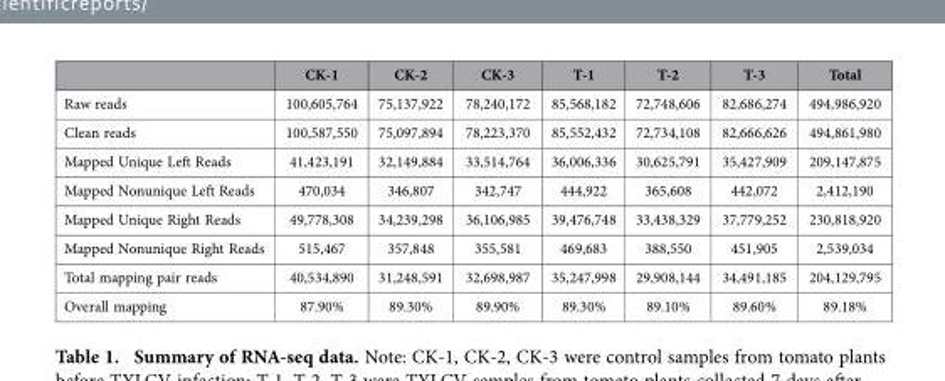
<table><thead><tr><td></td><td>CK-1</td><td>CK-2</td><td>CK-3</td><td>T-1</td><td>T-2</td><td>T-3</td><td>Total</td></tr></thead><tbody><tr><td>Raw reads</td><td>100,605,764</td><td>75,137,922</td><td>78,240,172</td><td>85,568,182</td><td>72,748,606</td><td>82,686,274</td><td>494,986,920</td></tr><tr><td>Clean reads</td><td>100,587,550</td><td>75,097,894</td><td>78,223,370</td><td>85,552,432</td><td>72,734,108</td><td>82,666,626</td><td>494,861,980</td></tr><tr><td>Mapped Unique Left Reads</td><td>41,423,191</td><td>32,149,884</td><td>33,514,764</td><td>36,006,336</td><td>30,625,791</td><td>35,427,909</td><td>209,147,875</td></tr><tr><td>Mapped Nonunique Left Reads</td><td>470,034</td><td>346,807</td><td>342,747</td><td>444,922</td><td>365,608</td><td>442,072</td><td>2,412,190</td></tr><tr><td>Mapped Unique Right Reads</td><td>49,778,308</td><td>34,239,298</td><td>36,106,985</td><td>39,476,748</td><td>33,438,329</td><td>37,779,252</td><td>230,818,920</td></tr><tr><td>Mapped Nonunique Right Reads</td><td>515,467</td><td>357,848</td><td>355,581</td><td>469,683</td><td>388,550</td><td>451,905</td><td>2,539,034</td></tr><tr><td>Total mapping pair reads</td><td>40,534,890</td><td>31,248,591</td><td>32,698,987</td><td>35,247,998</td><td>29,908,144</td><td>34,491,185</td><td>204,129,795</td></tr><tr><td>Overall mapping</td><td>87.90%</td><td>89.30%</td><td>89.90%</td><td>89.30%</td><td>89.10%</td><td>89.60%</td><td>89.18%</td></tr></tbody></table>